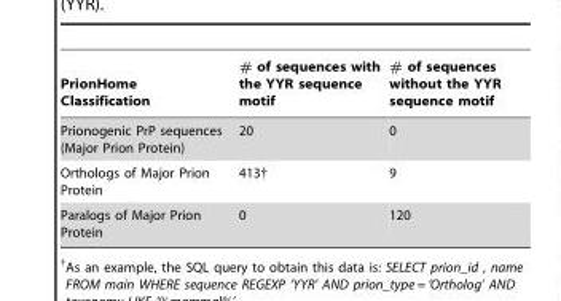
<table><thead><tr><td>PrionHome Classification</td><td># of sequences with the YYR sequence motif</td><td># of sequences without the YYR sequence motif</td></tr></thead><tbody><tr><td>Prionogenic PrP sequences (Major Prion Protein)</td><td>20</td><td>0</td></tr><tr><td>Orthologs of Major Prion Protein</td><td>413†</td><td>9</td></tr><tr><td>Paralogs of Major Prion Protein</td><td>0</td><td>120</td></tr></tbody></table>